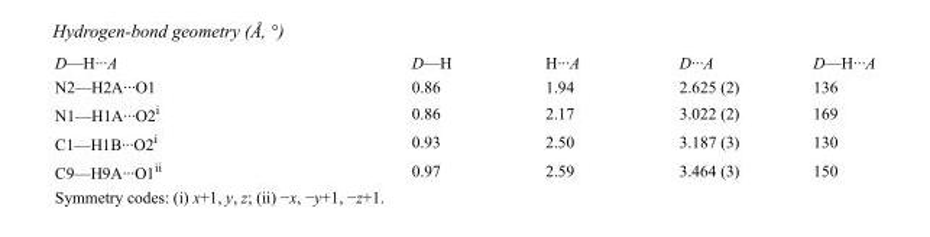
<table><tbody><tr><td>D—H···A</td><td>D—H</td><td>H···A</td><td>D···A</td><td>D—H···A</td></tr><tr><td>N2—H2A···O1</td><td>0.86</td><td>1.94</td><td>2.625 (2)</td><td>136</td></tr><tr><td>N1—H1A···O2<sup>i</sup></td><td>0.86</td><td>2.17</td><td>3.022 (2)</td><td>169</td></tr><tr><td>C1—H1B···O2<sup>i</sup></td><td>0.93</td><td>2.50</td><td>3.187 (3)</td><td>130</td></tr><tr><td>C9—H9A···O1<sup>ii</sup></td><td>0.97</td><td>2.59</td><td>3.464 (3)</td><td>150</td></tr></tbody></table>